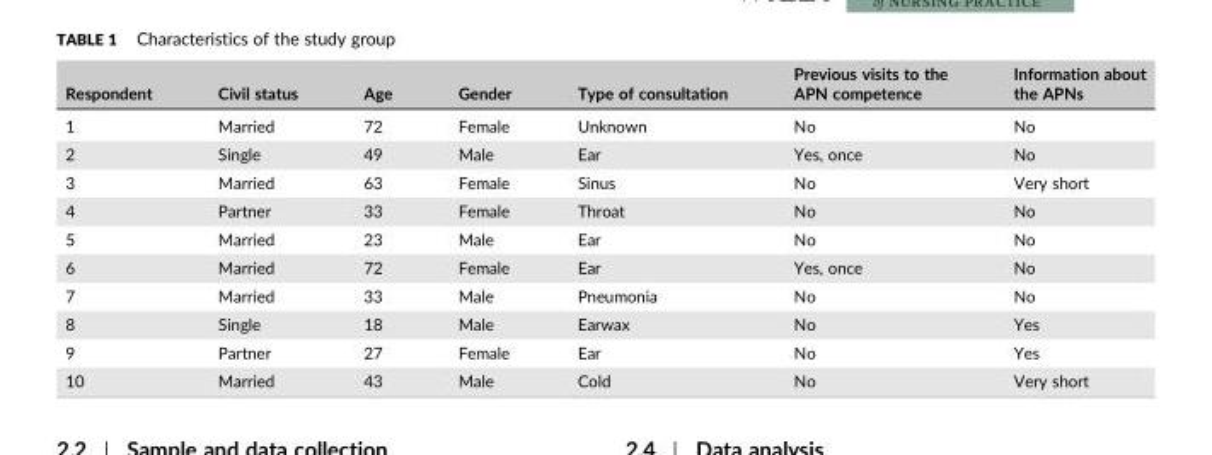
<table><thead><tr><td>Respondent</td><td>Civil status</td><td>Age</td><td>Gender</td><td>Type of consultation</td><td>Previous visits to the APN competence</td><td>Information about the APNs</td></tr></thead><tbody><tr><td>1</td><td>Married</td><td>72</td><td>Female</td><td>Unknown</td><td>No</td><td>No</td></tr><tr><td>2</td><td>Single</td><td>49</td><td>Male</td><td>Ear</td><td>Yes, once</td><td>No</td></tr><tr><td>3</td><td>Married</td><td>63</td><td>Female</td><td>Sinus</td><td>No</td><td>Very short</td></tr><tr><td>4</td><td>Partner</td><td>33</td><td>Female</td><td>Throat</td><td>No</td><td>No</td></tr><tr><td>5</td><td>Married</td><td>23</td><td>Male</td><td>Ear</td><td>No</td><td>No</td></tr><tr><td>6</td><td>Married</td><td>72</td><td>Female</td><td>Ear</td><td>Yes, once</td><td>No</td></tr><tr><td>7</td><td>Married</td><td>33</td><td>Male</td><td>Pneumonia</td><td>No</td><td>No</td></tr><tr><td>8</td><td>Single</td><td>18</td><td>Male</td><td>Earwax</td><td>No</td><td>Yes</td></tr><tr><td>9</td><td>Partner</td><td>27</td><td>Female</td><td>Ear</td><td>No</td><td>Yes</td></tr><tr><td>10</td><td>Married</td><td>43</td><td>Male</td><td>Cold</td><td>No</td><td>Very short</td></tr></tbody></table>